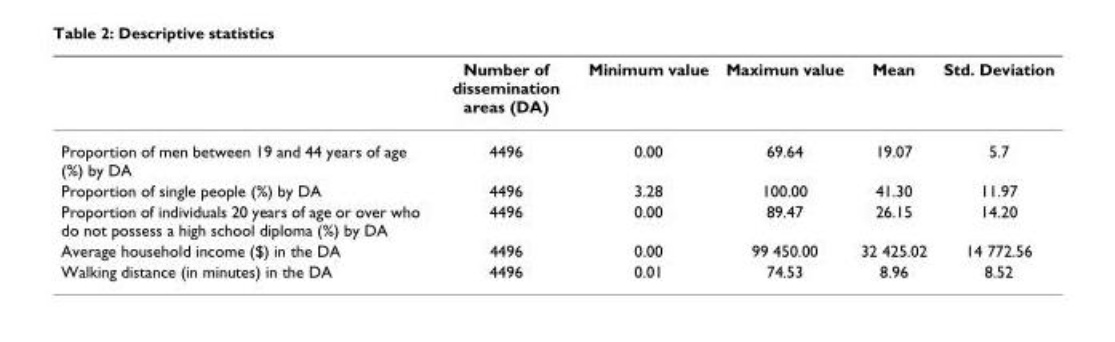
<table><thead><tr><td></td><td>Number of dissemination areas (DA)</td><td>Minimum value</td><td>Maximun value</td><td>Mean</td><td>Std. Deviation</td></tr></thead><tbody><tr><td>Proportion of men between 19 and 44 years of age (%) by DA</td><td>4496</td><td>0.00</td><td>69.64</td><td>19.07</td><td>5.7</td></tr><tr><td>Proportion of single people (%) by DA</td><td>4496</td><td>3.28</td><td>100.00</td><td>41.30</td><td>11.97</td></tr><tr><td>Proportion of individuals 20 years of age or over who do not possess a high school diploma (%) by DA</td><td>4496</td><td>0.00</td><td>89.47</td><td>26.15</td><td>14.20</td></tr><tr><td>Average household income ($) in the DA</td><td>4496</td><td>0.00</td><td>99 450.00</td><td>32 425.02</td><td>14 772.56</td></tr><tr><td>Walking distance (in minutes) in the DA</td><td>4496</td><td>0.01</td><td>74.53</td><td>8.96</td><td>8.52</td></tr></tbody></table>